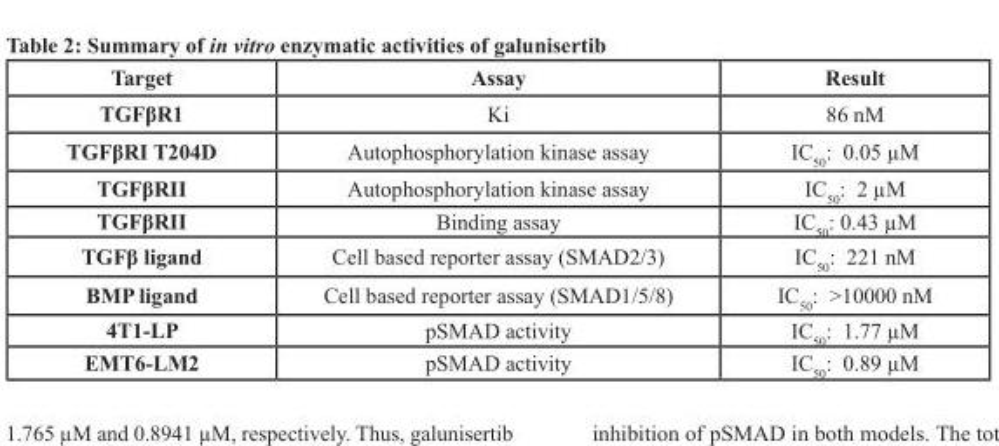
<table><thead><tr><td>Target</td><td>Assay</td><td>Result</td></tr></thead><tbody><tr><td>TGFβR1</td><td>Ki</td><td>86 nM</td></tr><tr><td>TGFβRI T204D</td><td>Autophosphorylation kinase assay</td><td>IC<sub>50</sub>: 0.05 µM</td></tr><tr><td>TGFβRII</td><td>Autophosphorylation kinase assay</td><td>IC<sub>50</sub>: 2 µM</td></tr><tr><td>TGFβRII</td><td>Binding assay</td><td>IC<sub>50</sub>: 0.43 µM</td></tr><tr><td>TGFβ ligand</td><td>Cell based reporter assay (SMAD2/3)</td><td>IC<sub>50</sub>: 221 nM</td></tr><tr><td>BMP ligand</td><td>Cell based reporter assay (SMAD1/5/8)</td><td>IC<sub>50</sub>: &gt;10000 nM</td></tr><tr><td>4T1-LP</td><td>pSMAD activity</td><td>IC<sub>50</sub>: 1.77 µM</td></tr><tr><td>EMT6-LM2</td><td>pSMAD activity</td><td>IC<sub>50</sub>: 0.89 µM</td></tr></tbody></table>